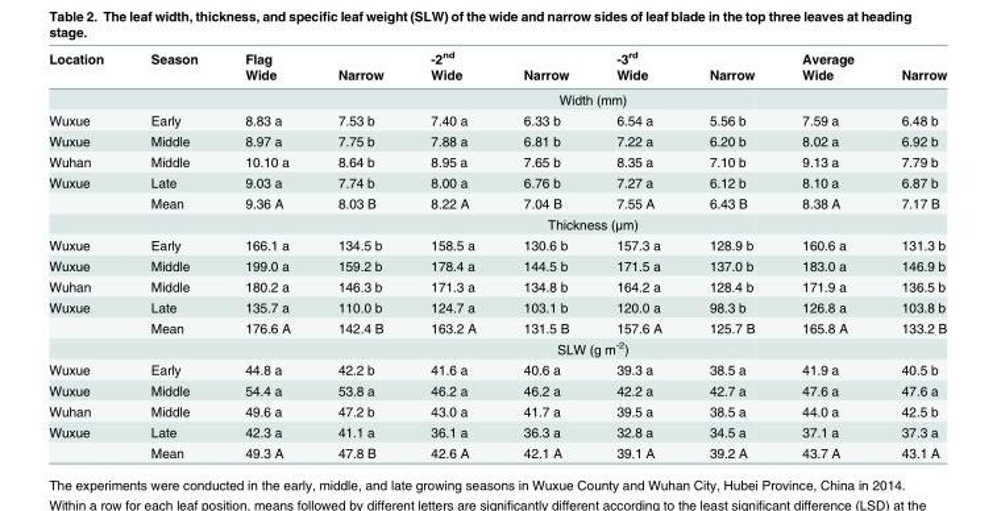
<table><thead><tr><td rowspan="2">Location</td><td rowspan="2">Season</td><td rowspan="2">Flag Wide</td><td rowspan="2">Narrow</td><td rowspan="2">-2<sup>nd</sup> Wide</td><td rowspan="2">Narrow</td><td rowspan="2">-3<sup>rd</sup> Wide</td><td rowspan="2">Narrow</td><td rowspan="2">Average Wide</td><td rowspan="2">Narrow</td></tr><tr></tr></thead><tbody><tr><td></td><td></td><td></td><td></td><td></td><td colspan="2">Width (mm)</td><td></td><td></td><td></td></tr><tr><td>Wuxue</td><td>Early</td><td>8.83 a</td><td>7.53 b</td><td>7.40 a</td><td>6.33 b</td><td>6.54 a</td><td>5.56 b</td><td>7.59 a</td><td>6.48 b</td></tr><tr><td>Wuxue</td><td>Middle</td><td>8.97 a</td><td>7.75 b</td><td>7.88 a</td><td>6.81 b</td><td>7.22 a</td><td>6.20 b</td><td>8.02 a</td><td>6.92 b</td></tr><tr><td>Wuhan</td><td>Middle</td><td>10.10 a</td><td>8.64 b</td><td>8.95 a</td><td>7.65 b</td><td>8.35 a</td><td>7.10 b</td><td>9.13 a</td><td>7.79 b</td></tr><tr><td rowspan="3">Wuxue</td><td>Late</td><td>9.03 a</td><td>7.74 b</td><td>8.00 a</td><td>6.76 b</td><td>7.27 a</td><td>6.12 b</td><td>8.10 a</td><td>6.87 b</td></tr><tr><td>Mean</td><td>9.36 A</td><td>8.03 B</td><td>8.22 A</td><td>7.04 B</td><td>7.55 A</td><td>6.43 B</td><td>8.38 A</td><td>7.17 B</td></tr><tr><td></td><td></td><td></td><td></td><td colspan="2">Thickness (μm)</td><td></td><td></td><td></td></tr><tr><td>Wuxue</td><td>Early</td><td>166.1 a</td><td>134.5 b</td><td>158.5 a</td><td>130.6 b</td><td>157.3 a</td><td>128.9 b</td><td>160.6 a</td><td>131.3 b</td></tr><tr><td>Wuxue</td><td>Middle</td><td>199.0 a</td><td>159.2 b</td><td>178.4 a</td><td>144.5 b</td><td>171.5 a</td><td>137.0 b</td><td>183.0 a</td><td>146.9 b</td></tr><tr><td>Wuhan</td><td>Middle</td><td>180.2 a</td><td>146.3 b</td><td>171.3 a</td><td>134.8 b</td><td>164.2 a</td><td>128.4 b</td><td>171.9 a</td><td>136.5 b</td></tr><tr><td rowspan="3">Wuxue</td><td>Late</td><td>135.7 a</td><td>110.0 b</td><td>124.7 a</td><td>103.1 b</td><td>120.0 a</td><td>98.3 b</td><td>126.8 a</td><td>103.8 b</td></tr><tr><td>Mean</td><td>176.6 A</td><td>142.4 B</td><td>163.2 A</td><td>131.5 B</td><td>157.6 A</td><td>125.7 B</td><td>165.8 A</td><td>133.2 B</td></tr><tr><td></td><td></td><td></td><td></td><td colspan="2">SLW (g m<sup>-2</sup>)</td><td></td><td></td><td></td></tr><tr><td>Wuxue</td><td>Early</td><td>44.8 a</td><td>42.2 b</td><td>41.6 a</td><td>40.6 a</td><td>39.3 a</td><td>38.5 a</td><td>41.9 a</td><td>40.5 b</td></tr><tr><td>Wuxue</td><td>Middle</td><td>54.4 a</td><td>53.8 a</td><td>46.2 a</td><td>46.2 a</td><td>42.2 a</td><td>42.7 a</td><td>47.6 a</td><td>47.6 a</td></tr><tr><td>Wuhan</td><td>Middle</td><td>49.6 a</td><td>47.2 b</td><td>43.0 a</td><td>41.7 a</td><td>39.5 a</td><td>38.5 a</td><td>44.0 a</td><td>42.5 b</td></tr><tr><td rowspan="2">Wuxue</td><td>Late</td><td>42.3 a</td><td>41.1 a</td><td>36.1 a</td><td>36.3 a</td><td>32.8 a</td><td>34.5 a</td><td>37.1 a</td><td>37.3 a</td></tr><tr><td>Mean</td><td>49.3 A</td><td>47.8 B</td><td>42.6 A</td><td>42.1 A</td><td>39.1 A</td><td>39.2 A</td><td>43.7 A</td><td>43.1 A</td></tr></tbody></table>